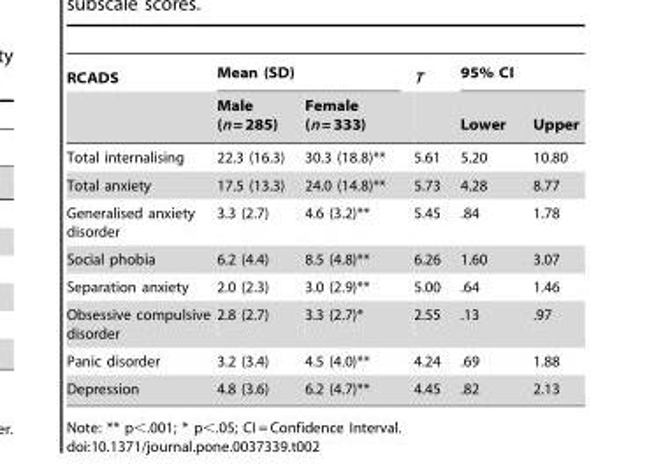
<table><thead><tr><td rowspan="2">RCADS</td><td colspan="2">Mean (SD)</td><td rowspan="2">T</td><td colspan="2">95% CI</td></tr><tr><td>Male (n = 285)</td><td>Female (n = 333)</td><td>Lower</td><td>Upper</td></tr></thead><tbody><tr><td>Total internalising</td><td>22.3 (16.3)</td><td>30.3 (18.8)**</td><td>5.61</td><td>5.20</td><td>10.80</td></tr><tr><td>Total anxiety</td><td>17.5 (13.3)</td><td>24.0 (14.8)**</td><td>5.73</td><td>4.28</td><td>8.77</td></tr><tr><td>Generalised anxiety disorder</td><td>3.3 (2.7)</td><td>4.6 (3.2)**</td><td>5.45</td><td>.84</td><td>1.78</td></tr><tr><td>Social phobia</td><td>6.2 (4.4)</td><td>8.5 (4.8)**</td><td>6.26</td><td>1.60</td><td>3.07</td></tr><tr><td>Separation anxiety</td><td>2.0 (2.3)</td><td>3.0 (2.9)**</td><td>5.00</td><td>.64</td><td>1.46</td></tr><tr><td>Obsessive compulsive disorder</td><td>2.8 (2.7)</td><td>3.3 (2.7)*</td><td>2.55</td><td>.13</td><td>.97</td></tr><tr><td>Panic disorder</td><td>3.2 (3.4)</td><td>4.5 (4.0)**</td><td>4.24</td><td>.69</td><td>1.88</td></tr><tr><td>Depression</td><td>4.8 (3.6)</td><td>6.2 (4.7)**</td><td>4.45</td><td>.82</td><td>2.13</td></tr></tbody></table>